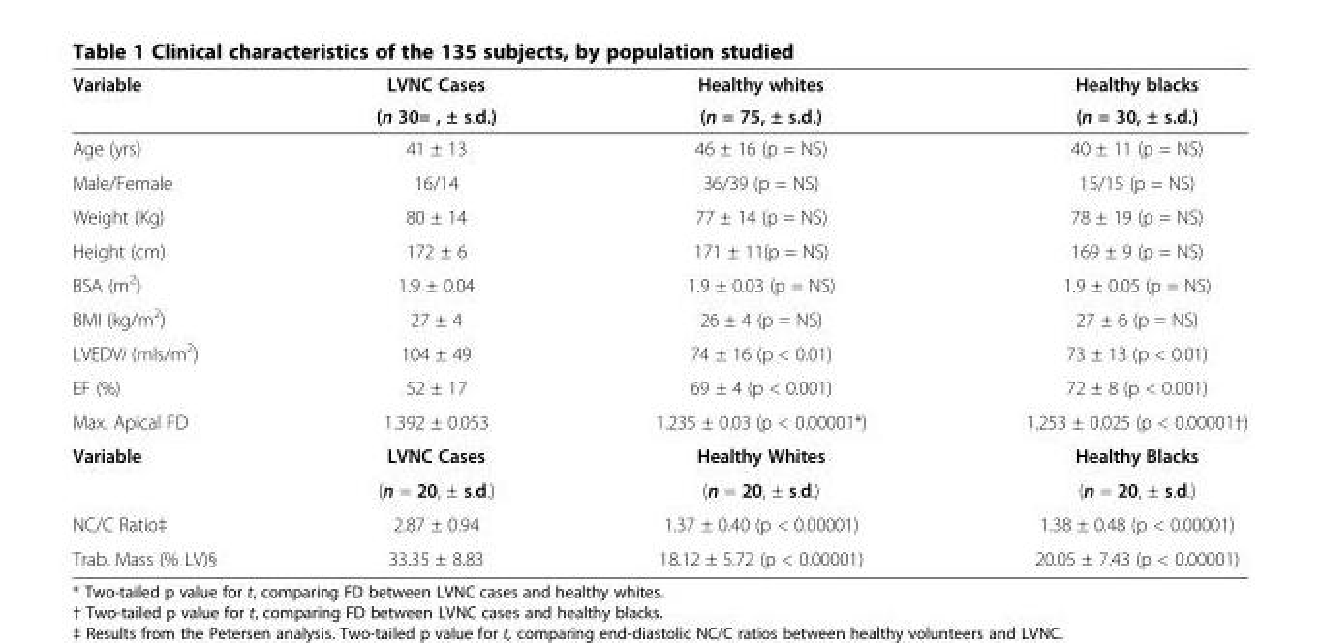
<table><thead><tr><td rowspan="2">Variable</td><td rowspan="2">LVNC Cases (n 30= , ± s.d.)</td><td rowspan="2">Healthy whites (n = 75, ± s.d.)</td><td rowspan="2">Healthy blacks (n = 30, ± s.d.)</td></tr><tr></tr></thead><tbody><tr><td>Age (yrs)</td><td>41 ± 13</td><td>46 ± 16 (p = NS)</td><td>40 ± 11 (p = NS)</td></tr><tr><td>Male/Female</td><td>16/14</td><td>36/39 (p = NS)</td><td>15/15 (p = NS)</td></tr><tr><td>Weight (Kg)</td><td>80 ± 14</td><td>77 ± 14 (p = NS)</td><td>78 ± 19 (p = NS)</td></tr><tr><td>Height (cm)</td><td>172 ± 6</td><td>171 ± 11(p = NS)</td><td>169 ± 9 (p = NS)</td></tr><tr><td>BSA (m<sup>2</sup>)</td><td>1.9 ± 0.04</td><td>1.9 ± 0.03 (p = NS)</td><td>1.9 ± 0.05 (p = NS)</td></tr><tr><td>BMI (kg/m<sup>2</sup>)</td><td>27 ± 4</td><td>26 ± 4 (p = NS)</td><td>27 ± 6 (p = NS)</td></tr><tr><td>LVEDVi (mls/m<sup>2</sup>)</td><td>104 ± 49</td><td>74 ± 16 (p &lt; 0.01)</td><td>73 ± 13 (p &lt; 0.01)</td></tr><tr><td>EF (%)</td><td>52 ± 17</td><td>69 ± 4 (p &lt; 0.001)</td><td>72 ± 8 (p &lt; 0.001)</td></tr><tr><td>Max. Apical FD</td><td>1.392 ± 0.053</td><td>1.235 ± 0.03 (p &lt; 0.00001*)</td><td>1.253 ± 0.025 (p &lt; 0.00001†)</td></tr><tr><td rowspan="2">Variable</td><td>LVNC Cases</td><td>Healthy Whites</td><td>Healthy Blacks</td></tr><tr><td>(n = 20, ± s.d.)</td><td>(n = 20, ± s.d.)</td><td>(n = 20, ± s.d.)</td></tr><tr><td>NC/C Ratio‡</td><td>2.87 ± 0.94</td><td>1.37 ± 0.40 (p &lt; 0.00001)</td><td>1.38 ± 0.48 (p &lt; 0.00001)</td></tr><tr><td>Trab. Mass (% LV)§</td><td>33.35 ± 8.83</td><td>18.12 ± 5.72 (p &lt; 0.00001)</td><td>20.05 ± 7.43 (p &lt; 0.00001)</td></tr></tbody></table>